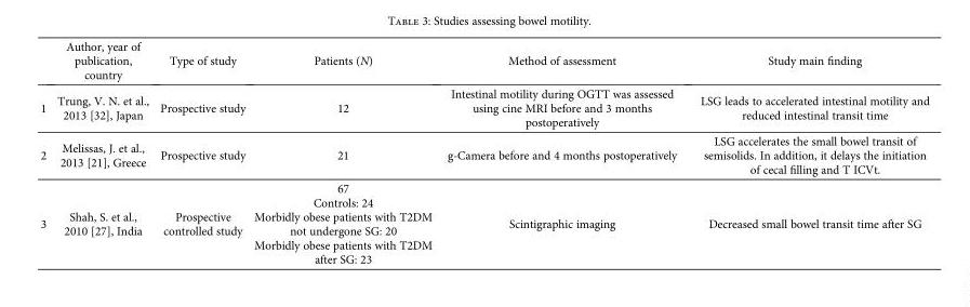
<table><thead><tr><td></td><td>Author, year of publication, country</td><td>Type of study</td><td>Patients (N)</td><td>Method of assessment</td><td>Study main finding</td></tr></thead><tbody><tr><td>1</td><td>Trung, V. N. et al., 2013 [32], Japan</td><td>Prospective study</td><td>12</td><td>Intestinal motility during OGTT was assessed using cine MRI before and 3 months postoperatively</td><td>LSG leads to accelerated intestinal motility and reduced intestinal transit time</td></tr><tr><td>2</td><td>Melissas, J. et al., 2013 [21], Greece</td><td>Prospective study</td><td>21</td><td>g-Camera before and 4 months postoperatively</td><td>LSG accelerates the small bowel transit of semisolids. In addition, it delays the initiation of cecal filling and T ICVt.</td></tr><tr><td>3</td><td>Shah, S. et al., 2010 [27], India</td><td>Prospective controlled study</td><td>67 Controls: 24 Morbidly obese patients with T2DM not undergone SG: 20 Morbidly obese patients with T2DM after SG: 23</td><td>Scintigraphic imaging</td><td>Decreased small bowel transit time after SG</td></tr></tbody></table>